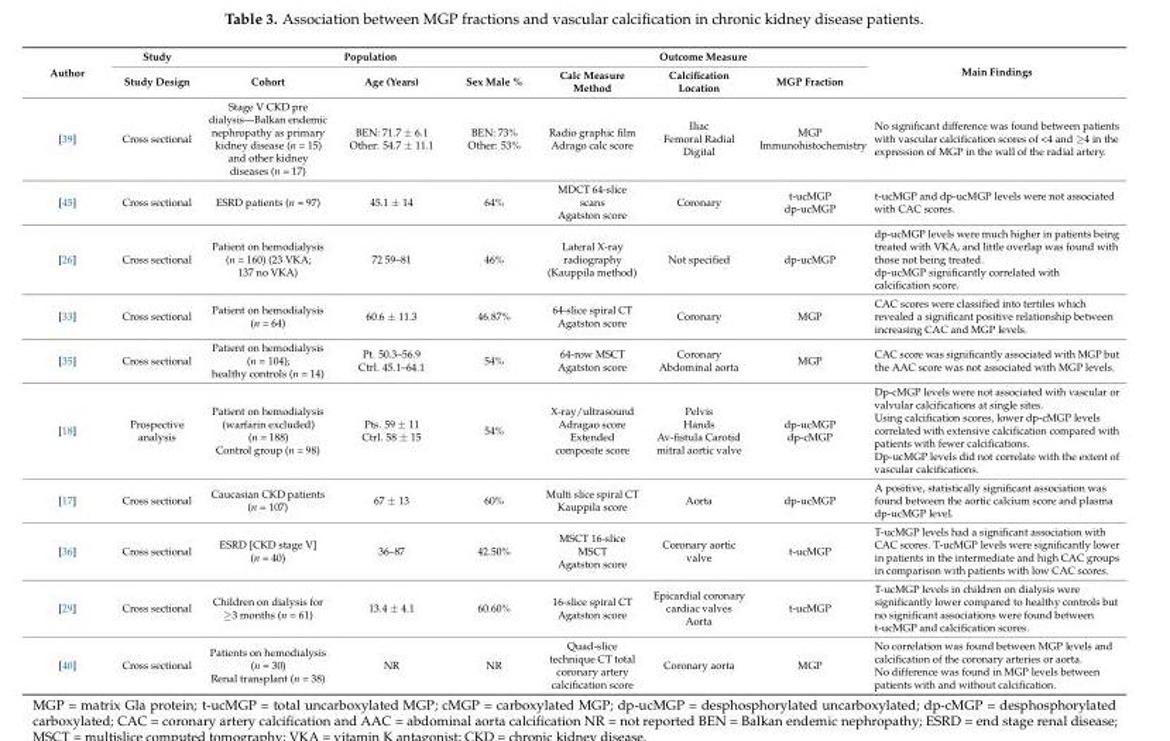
<table><thead><tr><td rowspan="2">Author</td><td rowspan="2">Study Study Design</td><td colspan="3">Population</td><td colspan="3">Outcome Measure</td><td rowspan="2">Main Findings</td></tr><tr><td>Cohort</td><td>Age (Years)</td><td>Sex Male %</td><td>Calc Measure Method</td><td>Calcification Location</td><td>MGP Fraction</td></tr></thead><tbody><tr><td>[39]</td><td>Cross sectional</td><td>Stage V CKD pre dialysis—Balkan endemic nephropathy as primary kidney disease (n = 15) and other kidney diseases (n = 17)</td><td>BEN: 71.7 ± 6.1 Other: 54.7 ± 11.1</td><td>BEN: 73% Other: 53%</td><td>Radio graphic film Adrago calc score</td><td>Iliac Femoral Radial Digital</td><td>MGP Immunohistochemistry</td><td>No significant difference was found between patients with vascular calcification scores of &lt;4 and ≥4 in the expression of MGP in the wall of the radial artery.</td></tr><tr><td>[45]</td><td>Cross sectional</td><td>ESRD patients (n = 97)</td><td>45.1 ± 14</td><td>64%</td><td>MDCT 64-slice scans Agatston score</td><td>Coronary</td><td>t-ucMGP dp-ucMGP</td><td>t-ucMGP and dp-ucMGP levels were not associated with CAC scores.</td></tr><tr><td>[26]</td><td>Cross sectional</td><td>Patient on hemodialysis (n = 160) (23 VKA; 137 no VKA)</td><td>72 59–81</td><td>46%</td><td>Lateral X-ray radiography (Kauppila method)</td><td>Not specified</td><td>dp-ucMGP</td><td>dp-ucMGP levels were much higher in patients being treated with VKA, and little overlap was found with those not being treated. dp-ucMGP significantly correlated with calcification score.</td></tr><tr><td>[33]</td><td>Cross sectional</td><td>Patient on hemodialysis (n = 64)</td><td>60.6 ± 11.3</td><td>46.87%</td><td>64-slice spiral CT Agatston score</td><td>Coronary</td><td>MGP</td><td>CAC scores were classified into tertiles which revealed a significant positive relationship between increasing CAC and MGP levels.</td></tr><tr><td>[35]</td><td>Cross sectional</td><td>Patient on hemodialysis (n = 104); healthy controls (n = 14)</td><td>Pt. 50.3–56.9 Ctrl. 45.1–64.1</td><td>54%</td><td>64-row MSCT Agatston score</td><td>Coronary Abdominal aorta</td><td>MGP</td><td>CAC score was significantly associated with MGP but the AAC score was not associated with MGP levels.</td></tr><tr><td>[18]</td><td>Prospective analysis</td><td>Patient on hemodialysis (warfarin excluded) (n = 188) Control group (n = 98)</td><td>Pts. 59 ± 11 Ctrl. 58 ± 15</td><td>54%</td><td>X-ray/ultrasound Adragao score Extended composite score</td><td>Pelvis Hands Av-fistula Carotid mitral aortic valve</td><td>dp-ucMGP dp-cMGP</td><td>Dp-cMGP levels were not associated with vascular or valvular calcifications at single sites. Using calcification scores, lower dp-cMGP levels correlated with extensive calcification compared with patients with fewer calcifications. Dp-ucMGP levels did not correlate with the extent of vascular calcifications.</td></tr><tr><td>[17]</td><td>Cross sectional</td><td>Caucasian CKD patients (n = 107)</td><td>67 ± 13</td><td>60%</td><td>Multi slice spiral CT Kauppila score</td><td>Aorta</td><td>dp-ucMGP</td><td>A positive, statistically significant association was found between the aortic calcium score and plasma dp-ucMGP level.</td></tr><tr><td>[36]</td><td>Cross sectional</td><td>ESRD [CKD stage V] (n = 40)</td><td>36–87</td><td>42.50%</td><td>MSCT 16-slice MSCT Agatston score</td><td>Coronary aortic valve</td><td>t-ucMGP</td><td>T-ucMGP levels had a significant association with CAC scores. T-ucMGP levels were significantly lower in patients in the intermediate and high CAC groups in comparison with patients with low CAC scores.</td></tr><tr><td>[29]</td><td>Cross sectional</td><td>Children on dialysis for ≥3 months (n = 61)</td><td>13.4 ± 4.1</td><td>60.60%</td><td>16-slice spiral CT Agatston score</td><td>Epicardial coronary cardiac valves Aorta</td><td>t-ucMGP</td><td>T-ucMGP levels in children on dialysis were significantly lower compared to healthy controls but no significant associations were found between t-ucMGP and calcification scores.</td></tr><tr><td>[40]</td><td>Cross sectional</td><td>Patients on hemodialysis (n = 30) Renal transplant (n = 38)</td><td>NR</td><td>NR</td><td>Quad-slice technique CT total coronary artery calcification score</td><td>Coronary aorta</td><td>MGP</td><td>No correlation was found between MGP levels and calcification of the coronary arteries or aorta. No difference was found in MGP levels between patients with and without calcification.</td></tr></tbody></table>